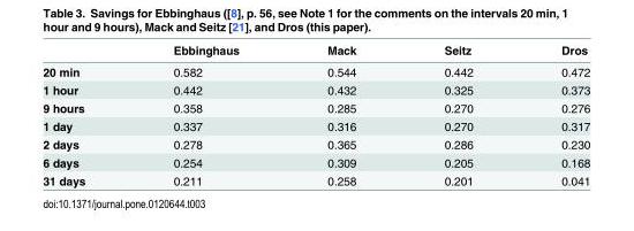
<table><thead><tr><td></td><td>Ebbinghaus</td><td>Mack</td><td>Seitz</td><td>Dros</td></tr></thead><tbody><tr><td>20 min</td><td>0.582</td><td>0.544</td><td>0.442</td><td>0.472</td></tr><tr><td>1 hour</td><td>0.442</td><td>0.432</td><td>0.325</td><td>0.373</td></tr><tr><td>9 hours</td><td>0.358</td><td>0.285</td><td>0.270</td><td>0.276</td></tr><tr><td>1 day</td><td>0.337</td><td>0.316</td><td>0.270</td><td>0.317</td></tr><tr><td>2 days</td><td>0.278</td><td>0.365</td><td>0.286</td><td>0.230</td></tr><tr><td>6 days</td><td>0.254</td><td>0.309</td><td>0.205</td><td>0.168</td></tr><tr><td>31 days</td><td>0.211</td><td>0.258</td><td>0.201</td><td>0.041</td></tr></tbody></table>